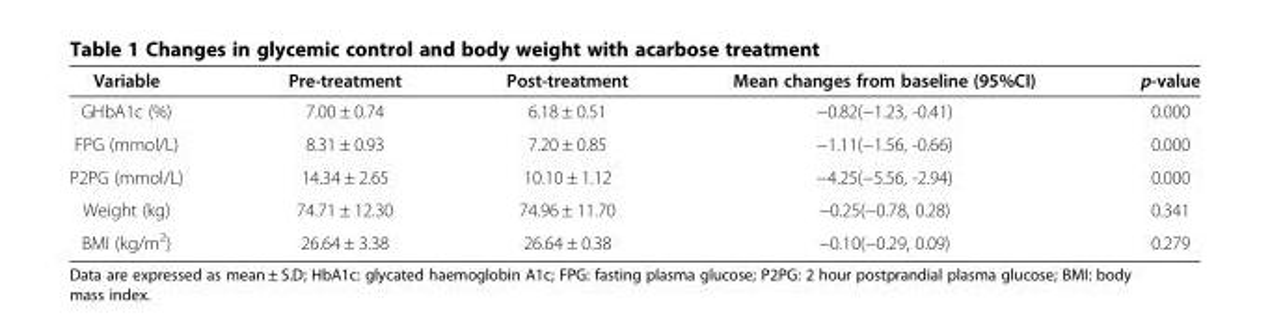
<table><thead><tr><td>Variable</td><td>Pre-treatment</td><td>Post-treatment</td><td>Mean changes from baseline (95%CI)</td><td>p-value</td></tr></thead><tbody><tr><td>GHbA1c (%)</td><td>7.00 ± 0.74</td><td>6.18 ± 0.51</td><td>−0.82(−1.23, -0.41)</td><td>0.000</td></tr><tr><td>FPG (mmol/L)</td><td>8.31 ± 0.93</td><td>7.20 ± 0.85</td><td>−1.11(−1.56, -0.66)</td><td>0.000</td></tr><tr><td>P2PG (mmol/L)</td><td>14.34 ± 2.65</td><td>10.10 ± 1.12</td><td>−4.25(−5.56, -2.94)</td><td>0.000</td></tr><tr><td>Weight (kg)</td><td>74.71 ± 12.30</td><td>74.96 ± 11.70</td><td>−0.25(−0.78, 0.28)</td><td>0.341</td></tr><tr><td>BMI (kg/m<sup>2</sup>)</td><td>26.64 ± 3.38</td><td>26.64 ± 0.38</td><td>−0.10(−0.29, 0.09)</td><td>0.279</td></tr></tbody></table>